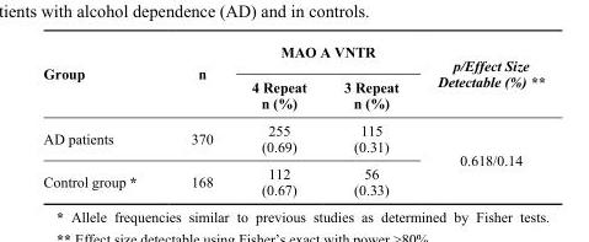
<table><thead><tr><td rowspan="2">Group</td><td rowspan="2">n</td><td colspan="2">MAO A VNTR</td><td rowspan="2">p/Effect Size Detectable (%) **</td></tr><tr><td>4 Repeat n (%)</td><td>3 Repeat n (%)</td></tr></thead><tbody><tr><td>AD patients</td><td>370</td><td>255 (0.69)</td><td>115 (0.31)</td><td rowspan="2">0.618/0.14</td></tr><tr><td>Control group *</td><td>168</td><td>112 (0.67)</td><td>56 (0.33)</td></tr></tbody></table>